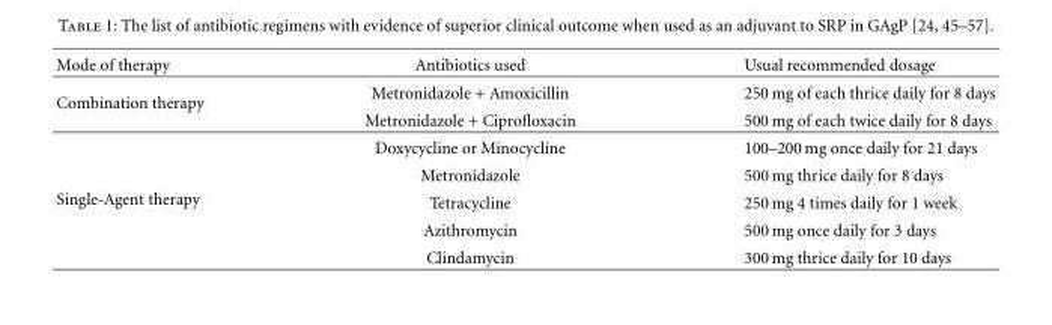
<table><thead><tr><td>Mode of therapy</td><td>Antibiotics used</td><td>Usual recommended dosage</td></tr></thead><tbody><tr><td rowspan="2">Combination therapy</td><td>Metronidazole + Amoxicillin</td><td>250 mg of each thrice daily for 8 days</td></tr><tr><td>Metronidazole + Ciprofloxacin</td><td>500 mg of each twice daily for 8 days</td></tr><tr><td rowspan="5">Single-Agent therapy</td><td>Doxycycline or Minocycline</td><td>100–200 mg once daily for 21 days</td></tr><tr><td>Metronidazole</td><td>500 mg thrice daily for 8 days</td></tr><tr><td>Tetracycline</td><td>250 mg 4 times daily for 1 week</td></tr><tr><td>Azithromycin</td><td>500 mg once daily for 3 days</td></tr><tr><td>Clindamycin</td><td>300 mg thrice daily for 10 days</td></tr></tbody></table>